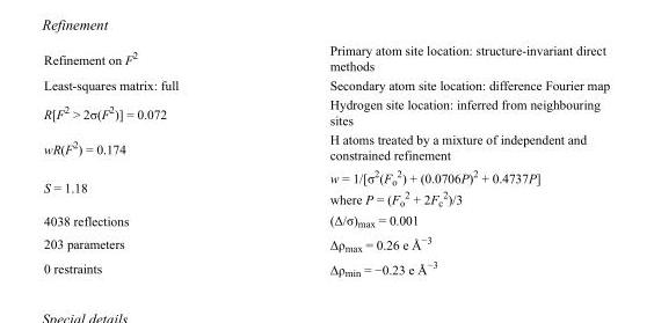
<table><tbody><tr><td>Refinement on F<sup>2</sup></td><td>Primary atom site location: structure-invariant direct methods</td></tr><tr><td>Least-squares matrix: full</td><td>Secondary atom site location: difference Fourier map</td></tr><tr><td>R[F<sup>2</sup> &gt; 2σ(F<sup>2</sup>)] = 0.072</td><td>Hydrogen site location: inferred from neighbouring sites</td></tr><tr><td>wR(F<sup>2</sup>) = 0.174</td><td>H atoms treated by a mixture of independent and constrained refinement</td></tr><tr><td>S = 1.18</td><td>w = 1/[σ<sup>2</sup>(F<sub>o</sub> <sup>2</sup>) + (0.0706P)<sup>2</sup> + 0.4737P] where P = (F<sub>o</sub> <sup>2</sup> + 2F<sub>c</sub> <sup>2</sup>)/3</td></tr><tr><td>4038 reflections</td><td>(Δ/σ)<sub>max</sub> = 0.001</td></tr><tr><td>203 parameters</td><td>Δρ<sub>max</sub> = 0.26 e Å<sup>−3</sup></td></tr><tr><td>0 restraints</td><td>Δρ<sub>min</sub> = −0.23 e Å<sup>−3</sup></td></tr></tbody></table>